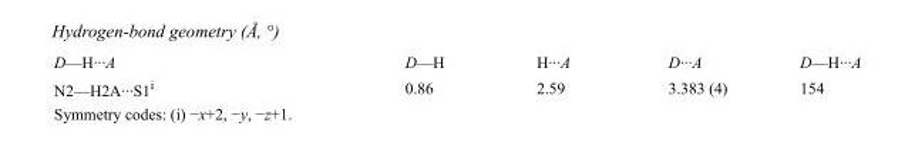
<table><tbody><tr><td>D—H···A</td><td>D—H</td><td>H···A</td><td>D···A</td><td>D—H···A</td></tr><tr><td>N2—H2A···S1<sup>i</sup></td><td>0.86</td><td>2.59</td><td>3.383 (4)</td><td>154</td></tr></tbody></table>